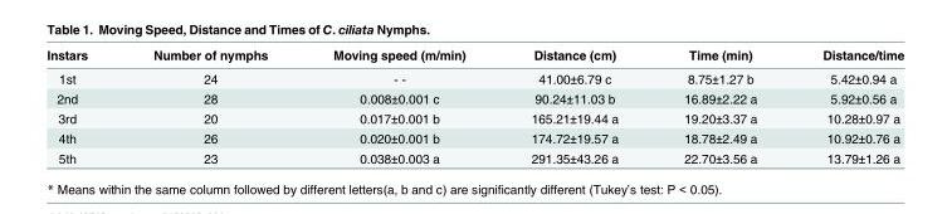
<table><thead><tr><td>Instars</td><td>Number of nymphs</td><td>Moving speed (m/min)</td><td>Distance (cm)</td><td>Time (min)</td><td>Distance/time</td></tr></thead><tbody><tr><td>1st</td><td>24</td><td>- -</td><td>41.00±6.79 c</td><td>8.75±1.27 b</td><td>5.42±0.94 a</td></tr><tr><td>2nd</td><td>28</td><td>0.008±0.001 c</td><td>90.24±11.03 b</td><td>16.89±2.22 a</td><td>5.92±0.56 a</td></tr><tr><td>3rd</td><td>20</td><td>0.017±0.001 b</td><td>165.21±19.44 a</td><td>19.20±3.37 a</td><td>10.28±0.97 a</td></tr><tr><td>4th</td><td>26</td><td>0.020±0.001 b</td><td>174.72±19.57 a</td><td>18.78±2.49 a</td><td>10.92±0.76 a</td></tr><tr><td>5th</td><td>23</td><td>0.038±0.003 a</td><td>291.35±43.26 a</td><td>22.70±3.56 a</td><td>13.79±1.26 a</td></tr></tbody></table>